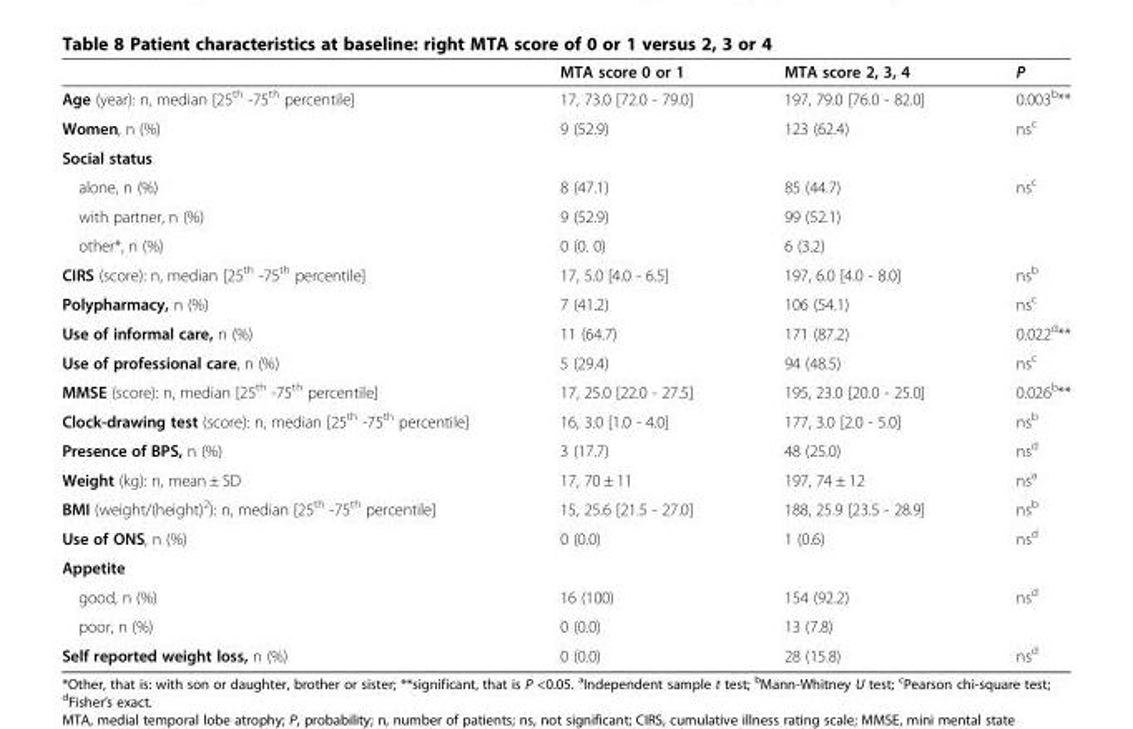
<table><thead><tr><td></td><td>MTA score 0 or 1</td><td>MTA score 2, 3, 4</td><td>P</td></tr></thead><tbody><tr><td>Age (year): n, median [25<sup>th</sup> -75<sup>th</sup> percentile]</td><td>17, 73.0 [72.0 - 79.0]</td><td>197, 79.0 [76.0 - 82.0]</td><td>0.003<sup>b</sup>**</td></tr><tr><td>Women, n (%)</td><td>9 (52.9)</td><td>123 (62.4)</td><td>ns<sup>c</sup></td></tr><tr><td colspan="4">Social status</td></tr><tr><td>alone, n (%)</td><td>8 (47.1)</td><td>85 (44.7)</td><td rowspan="3">ns<sup>c</sup></td></tr><tr><td>with partner, n (%)</td><td>9 (52.9)</td><td>99 (52.1)</td></tr><tr><td>other*, n (%)</td><td>0 (0. 0)</td><td>6 (3.2)</td></tr><tr><td>CIRS (score): n, median [25<sup>th</sup> -75<sup>th</sup> percentile]</td><td>17, 5.0 [4.0 - 6.5]</td><td>197, 6.0 [4.0 - 8.0]</td><td>ns<sup>b</sup></td></tr><tr><td>Polypharmacy, n (%)</td><td>7 (41.2)</td><td>106 (54.1)</td><td>ns<sup>c</sup></td></tr><tr><td>Use of informal care, n (%)</td><td>11 (64.7)</td><td>171 (87.2)</td><td>0.022<sup>d</sup>**</td></tr><tr><td>Use of professional care, n (%)</td><td>5 (29.4)</td><td>94 (48.5)</td><td>ns<sup>c</sup></td></tr><tr><td>MMSE (score): n, median [25<sup>th</sup> -75<sup>th</sup> percentile]</td><td>17, 25.0 [22.0 - 27.5]</td><td>195, 23.0 [20.0 - 25.0]</td><td>0.026<sup>b</sup>**</td></tr><tr><td>Clock-drawing test (score): n, median [25<sup>th</sup> -75<sup>th</sup> percentile]</td><td>16, 3.0 [1.0 - 4.0]</td><td>177, 3.0 [2.0 - 5.0]</td><td>ns<sup>b</sup></td></tr><tr><td>Presence of BPS, n (%)</td><td>3 (17.7)</td><td>48 (25.0)</td><td>ns<sup>d</sup></td></tr><tr><td>Weight (kg): n, mean ± SD</td><td>17, 70 ± 11</td><td>197, 74 ± 12</td><td>ns<sup>a</sup></td></tr><tr><td>BMI (weight/(height)<sup>2</sup>): n, median [25<sup>th</sup> -75<sup>th</sup> percentile]</td><td>15, 25.6 [21.5 - 27.0]</td><td>188, 25.9 [23.5 - 28.9]</td><td>ns<sup>b</sup></td></tr><tr><td>Use of ONS, n (%)</td><td>0 (0.0)</td><td>1 (0.6)</td><td>ns<sup>d</sup></td></tr><tr><td colspan="4">Appetite</td></tr><tr><td>good, n (%)</td><td>16 (100)</td><td>154 (92.2)</td><td rowspan="2">ns<sup>d</sup></td></tr><tr><td>poor, n (%)</td><td>0 (0.0)</td><td>13 (7.8)</td></tr><tr><td>Self reported weight loss, n (%)</td><td>0 (0.0)</td><td>28 (15.8)</td><td>ns<sup>d</sup></td></tr></tbody></table>